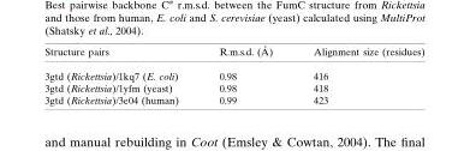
<table><thead><tr><td>Structure pairs</td><td>R.m.s.d. (A˚ )</td><td>Alignment size (residues)</td></tr></thead><tbody><tr><td>3gtd (Rickettsia)/1kq7 (E. coli)</td><td>0.98</td><td>416</td></tr><tr><td>3gtd (Rickettsia)/1yfm (yeast)</td><td>0.98</td><td>418</td></tr><tr><td>3gtd (Rickettsia)/3e04 (human)</td><td>0.99</td><td>423</td></tr></tbody></table>